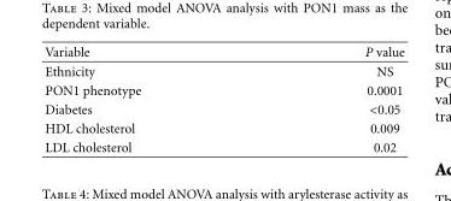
<table><thead><tr><td>Variable</td><td>P value</td></tr></thead><tbody><tr><td>Ethnicity</td><td>NS</td></tr><tr><td>PON1 phenotype</td><td>0.0001</td></tr><tr><td>Diabetes</td><td>&lt;0.05</td></tr><tr><td>HDL cholesterol</td><td>0.009</td></tr><tr><td>LDL cholesterol</td><td>0.02</td></tr></tbody></table>